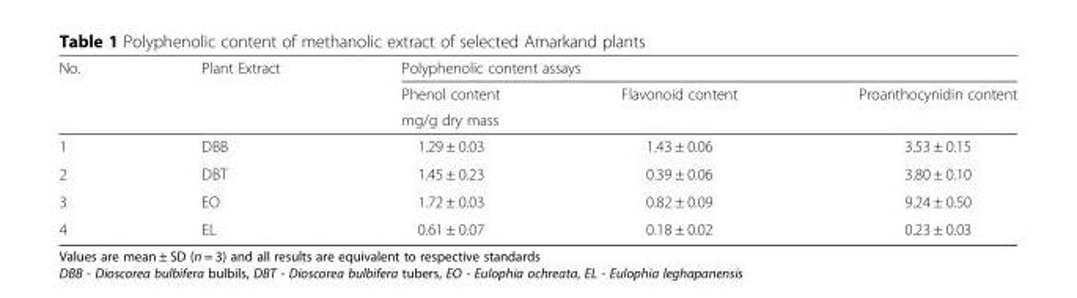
<table><thead><tr><td rowspan="3">No.</td><td rowspan="3">Plant Extract</td><td colspan="3">Polyphenolic content assays</td></tr><tr><td>Phenol content</td><td>Flavonoid content</td><td>Proanthocynidin content</td></tr><tr><td colspan="3">mg/g dry mass</td></tr></thead><tbody><tr><td>1</td><td>DBB</td><td>1.29 ± 0.03</td><td>1.43 ± 0.06</td><td>3.53 ± 0.15</td></tr><tr><td>2</td><td>DBT</td><td>1.45 ± 0.23</td><td>0.39 ± 0.06</td><td>3.80 ± 0.10</td></tr><tr><td>3</td><td>EO</td><td>1.72 ± 0.03</td><td>0.82 ± 0.09</td><td>9.24 ± 0.50</td></tr><tr><td>4</td><td>EL</td><td>0.61 ± 0.07</td><td>0.18 ± 0.02</td><td>0.23 ± 0.03</td></tr></tbody></table>